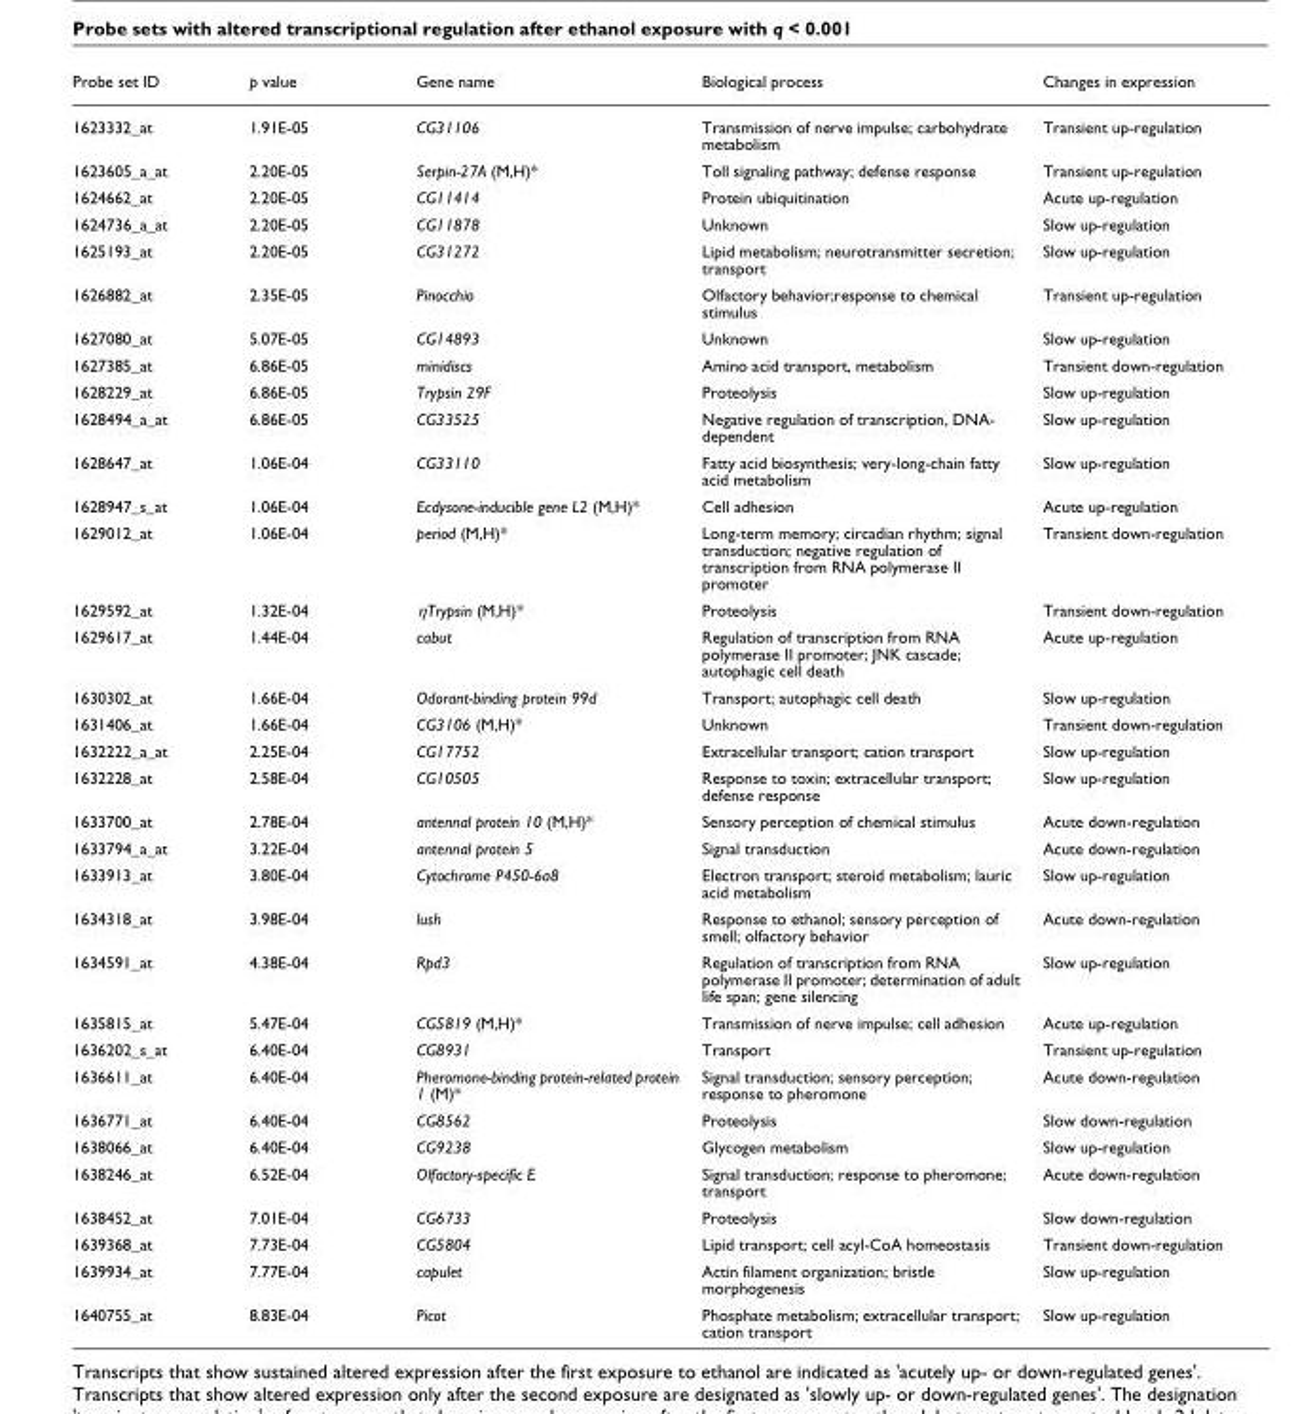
<table><thead><tr><td>Probe set ID</td><td>p value</td><td>Gene name</td><td>Biological process</td><td>Changes in expression</td></tr></thead><tbody><tr><td>1623332_at</td><td>1.91E-05</td><td>CG31106</td><td>Transmission of nerve impulse; carbohydrate metabolism</td><td>Transient up-regulation</td></tr><tr><td>1623605_a_at</td><td>2.20E-05</td><td>Serpin-27A (M,H)*</td><td>Toll signaling pathway; defense response</td><td>Transient up-regulation</td></tr><tr><td>1624662_at</td><td>2.20E-05</td><td>CG11414</td><td>Protein ubiquitination</td><td>Acute up-regulation</td></tr><tr><td>1624736_a_at</td><td>2.20E-05</td><td>CG11878</td><td>Unknown</td><td>Slow up-regulation</td></tr><tr><td>1625193_at</td><td>2.20E-05</td><td>CG31272</td><td>Lipid metabolism; neurotransmitter secretion; transport</td><td>Slow up-regulation</td></tr><tr><td>1626882_at</td><td>2.35E-05</td><td>Pinocchio</td><td>Olfactory behavior;response to chemical stimulus</td><td>Transient up-regulation</td></tr><tr><td>1627080_at</td><td>5.07E-05</td><td>CG14893</td><td>Unknown</td><td>Slow up-regulation</td></tr><tr><td>1627385_at</td><td>6.86E-05</td><td>minidiscs</td><td>Amino acid transport, metabolism</td><td>Transient down-regulation</td></tr><tr><td>1628229_at</td><td>6.86E-05</td><td>Trypsin 29F</td><td>Proteolysis</td><td>Slow up-regulation</td></tr><tr><td>1628494_a_at</td><td>6.86E-05</td><td>CG33525</td><td>Negative regulation of transcription, DNA- dependent</td><td>Slow up-regulation</td></tr><tr><td>1628647_at</td><td>1.06E-04</td><td>CG33110</td><td>Fatty acid biosynthesis; very-long-chain fatty acid metabolism</td><td>Slow up-regulation</td></tr><tr><td>1628947_s_at</td><td>1.06E-04</td><td>Ecdysone-inducible gene L2 (M,H)*</td><td>Cell adhesion</td><td>Acute up-regulation</td></tr><tr><td>1629012_at</td><td>1.06E-04</td><td>period (M,H)*</td><td>Long-term memory; circadian rhythm; signal transduction; negative regulation of transcription from RNA polymerase II promoter</td><td>Transient down-regulation</td></tr><tr><td>1629592_at</td><td>1.32E-04</td><td>ηTrypsin (M,H)*</td><td>Proteolysis</td><td>Transient down-regulation</td></tr><tr><td>1629617_at</td><td>1.44E-04</td><td>cabut</td><td>Regulation of transcription from RNA polymerase II promoter; JNK cascade; autophagic cell death</td><td>Acute up-regulation</td></tr><tr><td>1630302_at</td><td>1.66E-04</td><td>Odorant-binding protein 99d</td><td>Transport; autophagic cell death</td><td>Slow up-regulation</td></tr><tr><td>1631406_at</td><td>1.66E-04</td><td>CG3106 (M,H)*</td><td>Unknown</td><td>Transient down-regulation</td></tr><tr><td>1632222_a_at</td><td>2.25E-04</td><td>CG17752</td><td>Extracellular transport; cation transport</td><td>Slow up-regulation</td></tr><tr><td>1632228_at</td><td>2.58E-04</td><td>CG10505</td><td>Response to toxin; extracellular transport; defense response</td><td>Slow up-regulation</td></tr><tr><td>1633700_at</td><td>2.78E-04</td><td>antennal protein 10 (M,H)*</td><td>Sensory perception of chemical stimulus</td><td>Acute down-regulation</td></tr><tr><td>1633794_a_at</td><td>3.22E-04</td><td>antennal protein 5</td><td>Signal transduction</td><td>Acute down-regulation</td></tr><tr><td>1633913_at</td><td>3.80E-04</td><td>Cytochrome P450-6a8</td><td>Electron transport; steroid metabolism; lauric acid metabolism</td><td>Slow up-regulation</td></tr><tr><td>1634318_at</td><td>3.98E-04</td><td>lush</td><td>Response to ethanol; sensory perception of smell; olfactory behavior</td><td>Acute down-regulation</td></tr><tr><td>1634591_at</td><td>4.38E-04</td><td>Rpd3</td><td>Regulation of transcription from RNA polymerase II promoter; determination of adult life span; gene silencing</td><td>Slow up-regulation</td></tr><tr><td>1635815_at</td><td>5.47E-04</td><td>CG5819 (M,H)*</td><td>Transmission of nerve impulse; cell adhesion</td><td>Acute up-regulation</td></tr><tr><td>1636202_s_at</td><td>6.40E-04</td><td>CG8931</td><td>Transport</td><td>Transient up-regulation</td></tr><tr><td>1636611_at</td><td>6.40E-04</td><td>Pheromone-binding protein-related protein 1 (M)*</td><td>Signal transduction; sensory perception; response to pheromone</td><td>Acute down-regulation</td></tr><tr><td>1636771_at</td><td>6.40E-04</td><td>CG8562</td><td>Proteolysis</td><td>Slow down-regulation</td></tr><tr><td>1638066_at</td><td>6.40E-04</td><td>CG9238</td><td>Glycogen metabolism</td><td>Slow up-regulation</td></tr><tr><td>1638246_at</td><td>6.52E-04</td><td>Olfactory-specific E</td><td>Signal transduction; response to pheromone; transport</td><td>Acute down-regulation</td></tr><tr><td>1638452_at</td><td>7.01E-04</td><td>CG6733</td><td>Proteolysis</td><td>Slow down-regulation</td></tr><tr><td>1639368_at</td><td>7.73E-04</td><td>CG5804</td><td>Lipid transport; cell acyl-CoA homeostasis</td><td>Transient down-regulation</td></tr><tr><td>1639934_at</td><td>7.77E-04</td><td>capulet</td><td>Actin filament organization; bristle morphogenesis</td><td>Slow up-regulation</td></tr><tr><td>1640755_at</td><td>8.83E-04</td><td>Picot</td><td>Phosphate metabolism; extracellular transport; cation transport</td><td>Slow up-regulation</td></tr></tbody></table>